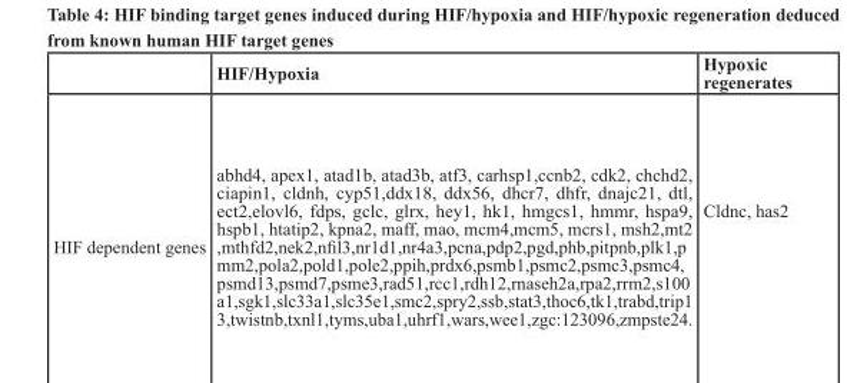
<table><thead><tr><td></td><td>HIF/Hypoxia</td><td>Hypoxic regenerates</td></tr></thead><tbody><tr><td>HIF dependent genes</td><td>abhd4, apex1, atad1b, atad3b, atf3, carhsp1,ccnb2, cdk2, chchd2, ciapin1, cldnh, cyp51,ddx18, ddx56, dhcr7, dhfr, dnajc21, dtl, ect2,elovl6, fdps, gclc, glrx, hey1, hk1, hmgcs1, hmmr, hspa9, hspb1, htatip2, kpna2, maff, mao, mcm4,mcm5, mcrs1, msh2,mt2 ,mthfd2,nek2,nfil3,nr1d1,nr4a3,pcna,pdp2,pgd,phb,pitpnb,plk1,p mm2,pola2,pold1,pole2,ppih,prdx6,psmb1,psmc2,psmc3,psmc4, psmd13,psmd7,psme3,rad51,rcc1,rdh12,rnaseh2a,rpa2,rrm2,s100 a1,sgk1,slc33a1,slc35e1,smc2,spry2,ssb,stat3,thoc6,tk1,trabd,trip1 3,twistnb,txnl1,tyms,uba1,uhrf1,wars,wee1,zgc:123096,zmpste24.</td><td>Cldnc, has2</td></tr></tbody></table>